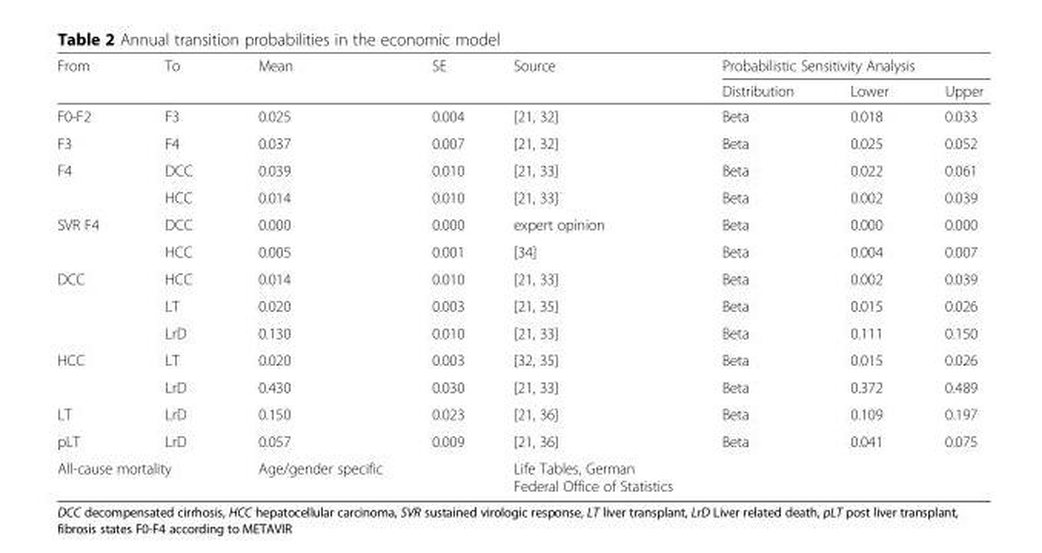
<table><thead><tr><td rowspan="2">From</td><td rowspan="2">To</td><td rowspan="2">Mean</td><td rowspan="2">SE</td><td rowspan="2">Source</td><td colspan="3">Probabilistic Sensitivity Analysis</td></tr><tr><td>Distribution</td><td>Lower</td><td>Upper</td></tr></thead><tbody><tr><td>F0-F2</td><td>F3</td><td>0.025</td><td>0.004</td><td>[21, 32]</td><td>Beta</td><td>0.018</td><td>0.033</td></tr><tr><td>F3</td><td>F4</td><td>0.037</td><td>0.007</td><td>[21, 32]</td><td>Beta</td><td>0.025</td><td>0.052</td></tr><tr><td rowspan="2">F4</td><td>DCC</td><td>0.039</td><td>0.010</td><td>[21, 33]</td><td>Beta</td><td>0.022</td><td>0.061</td></tr><tr><td>HCC</td><td>0.014</td><td>0.010</td><td>[21, 33]</td><td>Beta</td><td>0.002</td><td>0.039</td></tr><tr><td rowspan="2">SVR F4</td><td>DCC</td><td>0.000</td><td>0.000</td><td>expert opinion</td><td>Beta</td><td>0.000</td><td>0.000</td></tr><tr><td>HCC</td><td>0.005</td><td>0.001</td><td>[34]</td><td>Beta</td><td>0.004</td><td>0.007</td></tr><tr><td rowspan="3">DCC</td><td>HCC</td><td>0.014</td><td>0.010</td><td>[21, 33]</td><td>Beta</td><td>0.002</td><td>0.039</td></tr><tr><td>LT</td><td>0.020</td><td>0.003</td><td>[21, 35]</td><td>Beta</td><td>0.015</td><td>0.026</td></tr><tr><td>LrD</td><td>0.130</td><td>0.010</td><td>[21, 33]</td><td>Beta</td><td>0.111</td><td>0.150</td></tr><tr><td rowspan="2">HCC</td><td>LT</td><td>0.020</td><td>0.003</td><td>[32, 35]</td><td>Beta</td><td>0.015</td><td>0.026</td></tr><tr><td>LrD</td><td>0.430</td><td>0.030</td><td>[21, 33]</td><td>Beta</td><td>0.372</td><td>0.489</td></tr><tr><td>LT</td><td>LrD</td><td>0.150</td><td>0.023</td><td>[21, 36]</td><td>Beta</td><td>0.109</td><td>0.197</td></tr><tr><td>pLT</td><td>LrD</td><td>0.057</td><td>0.009</td><td>[21, 36]</td><td>Beta</td><td>0.041</td><td>0.075</td></tr><tr><td colspan="2">All-cause mortality</td><td>Age/gender specific</td><td></td><td>Life Tables, German Federal Office of Statistics</td><td></td><td></td><td></td></tr></tbody></table>